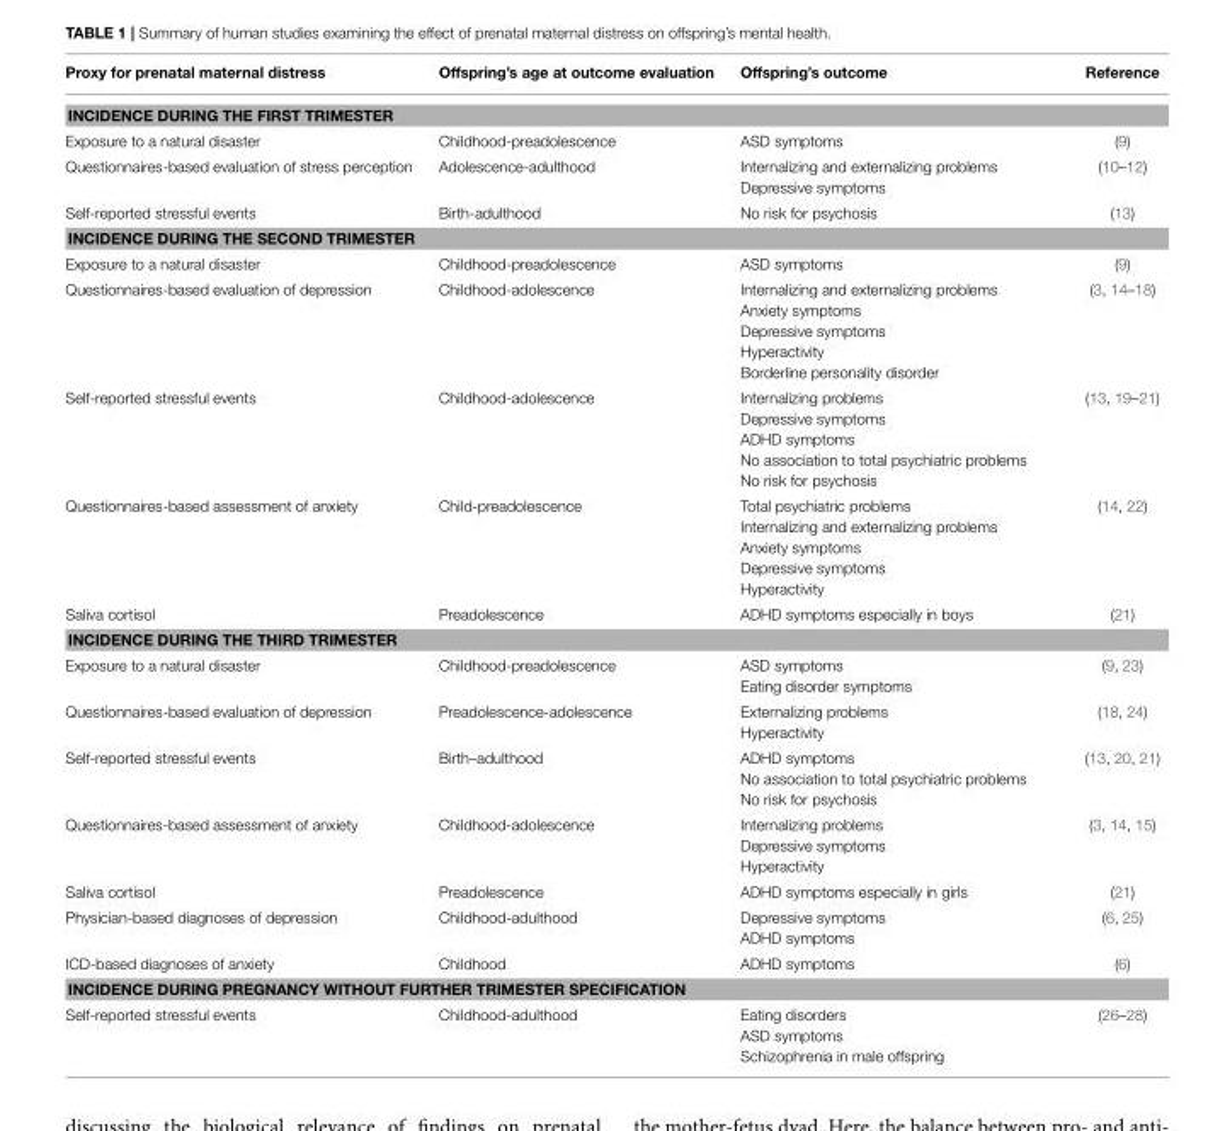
<table><thead><tr><td>Proxy for prenatal maternal distress</td><td>Offspring’s age at outcome evaluation</td><td>Offspring’s outcome</td><td>Reference</td></tr></thead><tbody><tr><td colspan="4">INCIDENCE DURING THE FIRST TRIMESTER</td></tr><tr><td>Exposure to a natural disaster</td><td>Childhood-preadolescence</td><td>ASD symptoms</td><td>(9)</td></tr><tr><td>Questionnaires-based evaluation of stress perception</td><td>Adolescence-adulthood</td><td>Internalizing and externalizing problems Depressive symptoms</td><td>(10–12)</td></tr><tr><td>Self-reported stressful events</td><td>Birth-adulthood</td><td>No risk for psychosis</td><td>(13)</td></tr><tr><td colspan="4">INCIDENCE DURING THE SECOND TRIMESTER</td></tr><tr><td>Exposure to a natural disaster</td><td>Childhood-preadolescence</td><td>ASD symptoms</td><td>(9)</td></tr><tr><td>Questionnaires-based evaluation of depression</td><td>Childhood-adolescence</td><td>Internalizing and externalizing problems Anxiety symptoms Depressive symptoms Hyperactivity Borderline personality disorder</td><td>(3, 14–18)</td></tr><tr><td>Self-reported stressful events</td><td>Childhood-adolescence</td><td>Internalizing problems Depressive symptoms ADHD symptoms No association to total psychiatric problems No risk for psychosis</td><td>(13, 19–21)</td></tr><tr><td>Questionnaires-based assessment of anxiety</td><td>Child-preadolescence</td><td>Total psychiatric problems Internalizing and externalizing problems Anxiety symptoms Depressive symptoms Hyperactivity</td><td>(14, 22)</td></tr><tr><td>Saliva cortisol</td><td>Preadolescence</td><td>ADHD symptoms especially in boys</td><td>(21)</td></tr><tr><td colspan="4">INCIDENCE DURING THE THIRD TRIMESTER</td></tr><tr><td>Exposure to a natural disaster</td><td>Childhood-preadolescence</td><td>ASD symptoms Eating disorder symptoms</td><td>(9, 23)</td></tr><tr><td>Questionnaires-based evaluation of depression</td><td>Preadolescence-adolescence</td><td>Externalizing problems Hyperactivity</td><td>(18, 24)</td></tr><tr><td>Self-reported stressful events</td><td>Birth–adulthood</td><td>ADHD symptoms No association to total psychiatric problems No risk for psychosis</td><td>(13, 20, 21)</td></tr><tr><td>Questionnaires-based assessment of anxiety</td><td>Childhood-adolescence</td><td>Internalizing problems Depressive symptoms Hyperactivity</td><td>(3, 14, 15)</td></tr><tr><td>Saliva cortisol</td><td>Preadolescence</td><td>ADHD symptoms especially in girls</td><td>(21)</td></tr><tr><td>Physician-based diagnoses of depression</td><td>Childhood-adulthood</td><td>Depressive symptoms ADHD symptoms</td><td>(6, 25)</td></tr><tr><td>ICD-based diagnoses of anxiety</td><td>Childhood</td><td>ADHD symptoms</td><td>(6)</td></tr><tr><td colspan="4">INCIDENCE DURING PREGNANCY WITHOUT FURTHER TRIMESTER SPECIFICATION</td></tr><tr><td>Self-reported stressful events</td><td>Childhood-adulthood</td><td>Eating disorders ASD symptoms Schizophrenia in male offspring</td><td>(26–28)</td></tr></tbody></table>